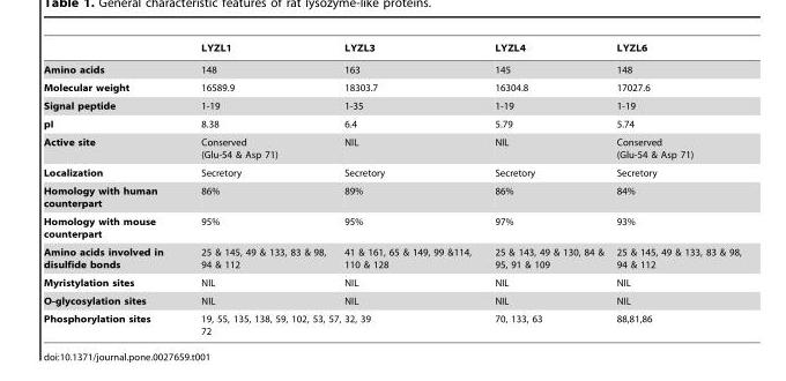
<table><thead><tr><td></td><td>LYZL1</td><td>LYZL3</td><td>LYZL4</td><td>LYZL6</td></tr></thead><tbody><tr><td>Amino acids</td><td>148</td><td>163</td><td>145</td><td>148</td></tr><tr><td>Molecular weight</td><td>16589.9</td><td>18303.7</td><td>16304.8</td><td>17027.6</td></tr><tr><td>Signal peptide</td><td>1-19</td><td>1-35</td><td>1-19</td><td>1-19</td></tr><tr><td>pI</td><td>8.38</td><td>6.4</td><td>5.79</td><td>5.74</td></tr><tr><td>Active site</td><td>Conserved (Glu-54 &amp; Asp 71)</td><td>NIL</td><td>NIL</td><td>Conserved (Glu-54 &amp; Asp 71)</td></tr><tr><td>Localization</td><td>Secretory</td><td>Secretory</td><td>Secretory</td><td>Secretory</td></tr><tr><td>Homology with human counterpart</td><td>86%</td><td>89%</td><td>86%</td><td>84%</td></tr><tr><td>Homology with mouse counterpart</td><td>95%</td><td>95%</td><td>97%</td><td>93%</td></tr><tr><td>Amino acids involved in disulfide bonds</td><td>25 &amp; 145, 49 &amp; 133, 83 &amp; 98, 94 &amp; 112</td><td>41 &amp; 161, 65 &amp; 149, 99 &amp;114, 110 &amp; 128</td><td>25 &amp; 143, 49 &amp; 130, 84 &amp; 95, 91 &amp; 109</td><td>25 &amp; 145, 49 &amp; 133, 83 &amp; 98, 94 &amp; 112</td></tr><tr><td>Myristylation sites</td><td>NIL</td><td>NIL</td><td>NIL</td><td>NIL</td></tr><tr><td>O-glycosylation sites</td><td>NIL</td><td>NIL</td><td>NIL</td><td>NIL</td></tr><tr><td>Phosphorylation sites</td><td>19, 55, 135, 138, 59, 102, 53, 57, 72</td><td>32, 39</td><td>70, 133, 63</td><td>88,81,86</td></tr></tbody></table>